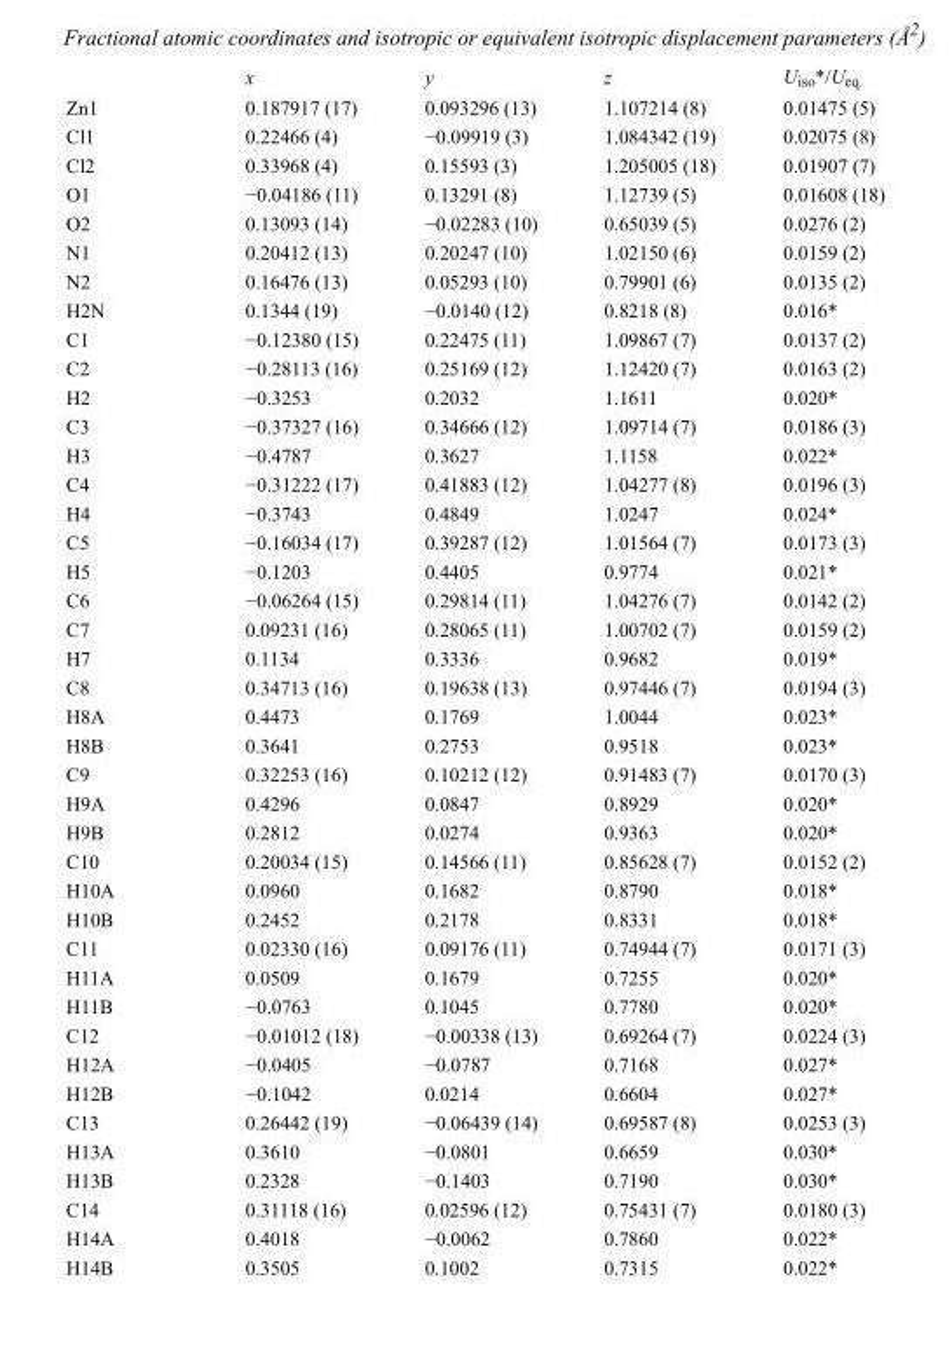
<table><thead><tr><td></td><td>x</td><td>y</td><td>z</td><td>U<sub>iso</sub>*/U<sub>eq</sub></td></tr></thead><tbody><tr><td>Zn1</td><td>0.187917 (17)</td><td>0.093296 (13)</td><td>1.107214 (8)</td><td>0.01475 (5)</td></tr><tr><td>Cl1</td><td>0.22466 (4)</td><td>−0.09919 (3)</td><td>1.084342 (19)</td><td>0.02075 (8)</td></tr><tr><td>Cl2</td><td>0.33968 (4)</td><td>0.15593 (3)</td><td>1.205005 (18)</td><td>0.01907 (7)</td></tr><tr><td>O1</td><td>−0.04186 (11)</td><td>0.13291 (8)</td><td>1.12739 (5)</td><td>0.01608 (18)</td></tr><tr><td>O2</td><td>0.13093 (14)</td><td>−0.02283 (10)</td><td>0.65039 (5)</td><td>0.0276 (2)</td></tr><tr><td>N1</td><td>0.20412 (13)</td><td>0.20247 (10)</td><td>1.02150 (6)</td><td>0.0159 (2)</td></tr><tr><td>N2</td><td>0.16476 (13)</td><td>0.05293 (10)</td><td>0.79901 (6)</td><td>0.0135 (2)</td></tr><tr><td>H2N</td><td>0.1344 (19)</td><td>−0.0140 (12)</td><td>0.8218 (8)</td><td>0.016*</td></tr><tr><td>C1</td><td>−0.12380 (15)</td><td>0.22475 (11)</td><td>1.09867 (7)</td><td>0.0137 (2)</td></tr><tr><td>C2</td><td>−0.28113 (16)</td><td>0.25169 (12)</td><td>1.12420 (7)</td><td>0.0163 (2)</td></tr><tr><td>H2</td><td>−0.3253</td><td>0.2032</td><td>1.1611</td><td>0.020*</td></tr><tr><td>C3</td><td>−0.37327 (16)</td><td>0.34666 (12)</td><td>1.09714 (7)</td><td>0.0186 (3)</td></tr><tr><td>H3</td><td>−0.4787</td><td>0.3627</td><td>1.1158</td><td>0.022*</td></tr><tr><td>C4</td><td>−0.31222 (17)</td><td>0.41883 (12)</td><td>1.04277 (8)</td><td>0.0196 (3)</td></tr><tr><td>H4</td><td>−0.3743</td><td>0.4849</td><td>1.0247</td><td>0.024*</td></tr><tr><td>C5</td><td>−0.16034 (17)</td><td>0.39287 (12)</td><td>1.01564 (7)</td><td>0.0173 (3)</td></tr><tr><td>H5</td><td>−0.1203</td><td>0.4405</td><td>0.9774</td><td>0.021*</td></tr><tr><td>C6</td><td>−0.06264 (15)</td><td>0.29814 (11)</td><td>1.04276 (7)</td><td>0.0142 (2)</td></tr><tr><td>C7</td><td>0.09231 (16)</td><td>0.28065 (11)</td><td>1.00702 (7)</td><td>0.0159 (2)</td></tr><tr><td>H7</td><td>0.1134</td><td>0.3336</td><td>0.9682</td><td>0.019*</td></tr><tr><td>C8</td><td>0.34713 (16)</td><td>0.19638 (13)</td><td>0.97446 (7)</td><td>0.0194 (3)</td></tr><tr><td>H8A</td><td>0.4473</td><td>0.1769</td><td>1.0044</td><td>0.023*</td></tr><tr><td>H8B</td><td>0.3641</td><td>0.2753</td><td>0.9518</td><td>0.023*</td></tr><tr><td>C9</td><td>0.32253 (16)</td><td>0.10212 (12)</td><td>0.91483 (7)</td><td>0.0170 (3)</td></tr><tr><td>H9A</td><td>0.4296</td><td>0.0847</td><td>0.8929</td><td>0.020*</td></tr><tr><td>H9B</td><td>0.2812</td><td>0.0274</td><td>0.9363</td><td>0.020*</td></tr><tr><td>C10</td><td>0.20034 (15)</td><td>0.14566 (11)</td><td>0.85628 (7)</td><td>0.0152 (2)</td></tr><tr><td>H10A</td><td>0.0960</td><td>0.1682</td><td>0.8790</td><td>0.018*</td></tr><tr><td>H10B</td><td>0.2452</td><td>0.2178</td><td>0.8331</td><td>0.018*</td></tr><tr><td>C11</td><td>0.02330 (16)</td><td>0.09176 (11)</td><td>0.74944 (7)</td><td>0.0171 (3)</td></tr><tr><td>H11A</td><td>0.0509</td><td>0.1679</td><td>0.7255</td><td>0.020*</td></tr><tr><td>H11B</td><td>−0.0763</td><td>0.1045</td><td>0.7780</td><td>0.020*</td></tr><tr><td>C12</td><td>−0.01012 (18)</td><td>−0.00338 (13)</td><td>0.69264 (7)</td><td>0.0224 (3)</td></tr><tr><td>H12A</td><td>−0.0405</td><td>−0.0787</td><td>0.7168</td><td>0.027*</td></tr><tr><td>H12B</td><td>−0.1042</td><td>0.0214</td><td>0.6604</td><td>0.027*</td></tr><tr><td>C13</td><td>0.26442 (19)</td><td>−0.06439 (14)</td><td>0.69587 (8)</td><td>0.0253 (3)</td></tr><tr><td>H13A</td><td>0.3610</td><td>−0.0801</td><td>0.6659</td><td>0.030*</td></tr><tr><td>H13B</td><td>0.2328</td><td>−0.1403</td><td>0.7190</td><td>0.030*</td></tr><tr><td>C14</td><td>0.31118 (16)</td><td>0.02596 (12)</td><td>0.75431 (7)</td><td>0.0180 (3)</td></tr><tr><td>H14A</td><td>0.4018</td><td>−0.0062</td><td>0.7860</td><td>0.022*</td></tr><tr><td>H14B</td><td>0.3505</td><td>0.1002</td><td>0.7315</td><td>0.022*</td></tr></tbody></table>